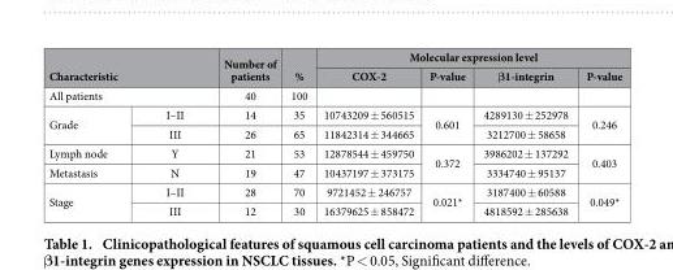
<table><thead><tr><td></td><td></td><td rowspan="2">Number of patients</td><td rowspan="2">%</td><td colspan="4">Molecular expression level</td></tr><tr><td colspan="2">Characteristic</td><td>COX-2</td><td>P-value</td><td>β1-integrin</td><td>P-value</td></tr></thead><tbody><tr><td colspan="2">All patients</td><td>40</td><td>100</td><td></td><td></td><td></td><td></td></tr><tr><td rowspan="2">Grade</td><td>I–II</td><td>14</td><td>35</td><td>10743209 ± 560515</td><td rowspan="2">0.601</td><td>4289130 ± 252978</td><td rowspan="2">0.246</td></tr><tr><td>III</td><td>26</td><td>65</td><td>11842314 ± 344665</td><td>3212700 ± 58658</td></tr><tr><td>Lymph node</td><td>Y</td><td>21</td><td>53</td><td>12878544 ± 459750</td><td rowspan="2">0.372</td><td>3986202 ± 137292</td><td rowspan="2">0.403</td></tr><tr><td>Metastasis</td><td>N</td><td>19</td><td>47</td><td>10437197 ± 373175</td><td>3334740 ± 95137</td></tr><tr><td rowspan="2">Stage</td><td>I–II</td><td>28</td><td>70</td><td>9721452 ± 246757</td><td rowspan="2">0.021*</td><td>3187400 ± 60588</td><td rowspan="2">0.049*</td></tr><tr><td>III</td><td>12</td><td>30</td><td>16379625 ± 858472</td><td>4818592 ± 285638</td></tr></tbody></table>